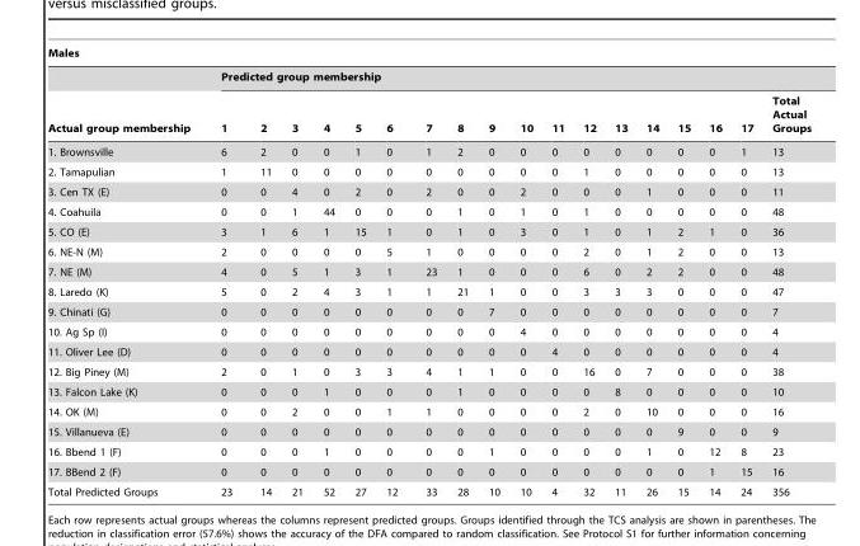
<table><thead><tr><td colspan="19">Males</td></tr><tr><td rowspan="2">Actual group membership</td><td colspan="18">Predicted group membership</td></tr><tr><td>1</td><td>2</td><td>3</td><td>4</td><td>5</td><td>6</td><td>7</td><td>8</td><td>9</td><td>10</td><td>11</td><td>12</td><td>13</td><td>14</td><td>15</td><td>16</td><td>17</td><td>Total Actual Groups</td></tr></thead><tbody><tr><td>1. Brownsville</td><td>6</td><td>2</td><td>0</td><td>0</td><td>1</td><td>0</td><td>1</td><td>2</td><td>0</td><td>0</td><td>0</td><td>0</td><td>0</td><td>0</td><td>0</td><td>0</td><td>1</td><td>13</td></tr><tr><td>2. Tamapulian</td><td>1</td><td>11</td><td>0</td><td>0</td><td>0</td><td>0</td><td>0</td><td>0</td><td>0</td><td>0</td><td>0</td><td>1</td><td>0</td><td>0</td><td>0</td><td>0</td><td>0</td><td>13</td></tr><tr><td>3. Cen TX (E)</td><td>0</td><td>0</td><td>4</td><td>0</td><td>2</td><td>0</td><td>2</td><td>0</td><td>0</td><td>2</td><td>0</td><td>0</td><td>0</td><td>1</td><td>0</td><td>0</td><td>0</td><td>11</td></tr><tr><td>4. Coahuila</td><td>0</td><td>0</td><td>1</td><td>44</td><td>0</td><td>0</td><td>0</td><td>1</td><td>0</td><td>1</td><td>0</td><td>1</td><td>0</td><td>0</td><td>0</td><td>0</td><td>0</td><td>48</td></tr><tr><td>5. CO (E)</td><td>3</td><td>1</td><td>6</td><td>1</td><td>15</td><td>1</td><td>0</td><td>1</td><td>0</td><td>3</td><td>0</td><td>1</td><td>0</td><td>1</td><td>2</td><td>1</td><td>0</td><td>36</td></tr><tr><td>6. NE-N (M)</td><td>2</td><td>0</td><td>0</td><td>0</td><td>0</td><td>5</td><td>1</td><td>0</td><td>0</td><td>0</td><td>0</td><td>2</td><td>0</td><td>1</td><td>2</td><td>0</td><td>0</td><td>13</td></tr><tr><td>7. NE (M)</td><td>4</td><td>0</td><td>5</td><td>1</td><td>3</td><td>1</td><td>23</td><td>1</td><td>0</td><td>0</td><td>0</td><td>6</td><td>0</td><td>2</td><td>2</td><td>0</td><td>0</td><td>48</td></tr><tr><td>8. Laredo (K)</td><td>5</td><td>0</td><td>2</td><td>4</td><td>3</td><td>1</td><td>1</td><td>21</td><td>1</td><td>0</td><td>0</td><td>3</td><td>3</td><td>3</td><td>0</td><td>0</td><td>0</td><td>47</td></tr><tr><td>9. Chinati (G)</td><td>0</td><td>0</td><td>0</td><td>0</td><td>0</td><td>0</td><td>0</td><td>0</td><td>7</td><td>0</td><td>0</td><td>0</td><td>0</td><td>0</td><td>0</td><td>0</td><td>0</td><td>7</td></tr><tr><td>10. Ag Sp (I)</td><td>0</td><td>0</td><td>0</td><td>0</td><td>0</td><td>0</td><td>0</td><td>0</td><td>0</td><td>4</td><td>0</td><td>0</td><td>0</td><td>0</td><td>0</td><td>0</td><td>0</td><td>4</td></tr><tr><td>11. Oliver Lee (D)</td><td>0</td><td>0</td><td>0</td><td>0</td><td>0</td><td>0</td><td>0</td><td>0</td><td>0</td><td>0</td><td>4</td><td>0</td><td>0</td><td>0</td><td>0</td><td>0</td><td>0</td><td>4</td></tr><tr><td>12. Big Piney (M)</td><td>2</td><td>0</td><td>1</td><td>0</td><td>3</td><td>3</td><td>4</td><td>1</td><td>1</td><td>0</td><td>0</td><td>16</td><td>0</td><td>7</td><td>0</td><td>0</td><td>0</td><td>38</td></tr><tr><td>13. Falcon Lake (K)</td><td>0</td><td>0</td><td>0</td><td>1</td><td>0</td><td>0</td><td>0</td><td>1</td><td>0</td><td>0</td><td>0</td><td>0</td><td>8</td><td>0</td><td>0</td><td>0</td><td>0</td><td>10</td></tr><tr><td>14. OK (M)</td><td>0</td><td>0</td><td>2</td><td>0</td><td>0</td><td>1</td><td>1</td><td>0</td><td>0</td><td>0</td><td>0</td><td>2</td><td>0</td><td>10</td><td>0</td><td>0</td><td>0</td><td>16</td></tr><tr><td>15. Villanueva (E)</td><td>0</td><td>0</td><td>0</td><td>0</td><td>0</td><td>0</td><td>0</td><td>0</td><td>0</td><td>0</td><td>0</td><td>0</td><td>0</td><td>0</td><td>9</td><td>0</td><td>0</td><td>9</td></tr><tr><td>16. Bbend 1 (F)</td><td>0</td><td>0</td><td>0</td><td>1</td><td>0</td><td>0</td><td>0</td><td>0</td><td>1</td><td>0</td><td>0</td><td>0</td><td>0</td><td>1</td><td>0</td><td>12</td><td>8</td><td>23</td></tr><tr><td>17. BBend 2 (F)</td><td>0</td><td>0</td><td>0</td><td>0</td><td>0</td><td>0</td><td>0</td><td>0</td><td>0</td><td>0</td><td>0</td><td>0</td><td>0</td><td>0</td><td>0</td><td>1</td><td>15</td><td>16</td></tr><tr><td>Total Predicted Groups</td><td>23</td><td>14</td><td>21</td><td>52</td><td>27</td><td>12</td><td>33</td><td>28</td><td>10</td><td>10</td><td>4</td><td>32</td><td>11</td><td>26</td><td>15</td><td>14</td><td>24</td><td>356</td></tr></tbody></table>